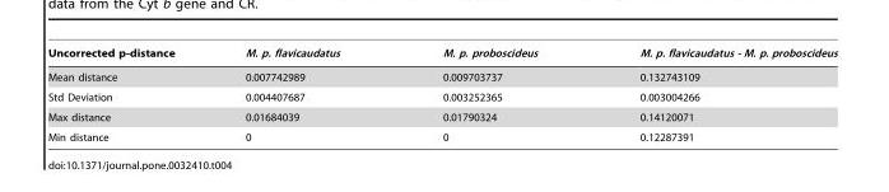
<table><thead><tr><td>Uncorrected p-distance</td><td>M. p. flavicaudatus</td><td>M. p. proboscideus</td><td>M. p. flavicaudatus - M. p. proboscideus</td></tr></thead><tbody><tr><td>Mean distance</td><td>0.007742989</td><td>0.009703737</td><td>0.132743109</td></tr><tr><td>Std Deviation</td><td>0.004407687</td><td>0.003252365</td><td>0.003004266</td></tr><tr><td>Max distance</td><td>0.01684039</td><td>0.01790324</td><td>0.14120071</td></tr><tr><td>Min distance</td><td>0</td><td>0</td><td>0.12287391</td></tr></tbody></table>